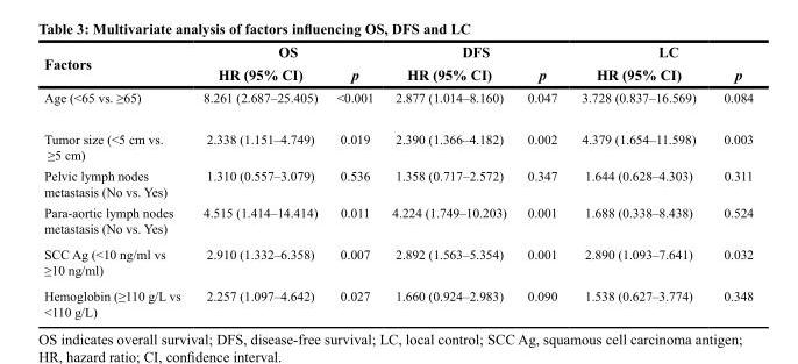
<table><thead><tr><td rowspan="2">Factors</td><td colspan="2">OS</td><td colspan="2">DFS</td><td colspan="2">LC</td></tr><tr><td>HR (95% CI)</td><td>p</td><td>HR (95% CI)</td><td>p</td><td>HR (95% CI)</td><td>p</td></tr></thead><tbody><tr><td>Age (&lt;65 vs. ≥65)</td><td>8.261 (2.687–25.405)</td><td>&lt;0.001</td><td>2.877 (1.014–8.160)</td><td>0.047</td><td>3.728 (0.837–16.569)</td><td>0.084</td></tr><tr><td>Tumor size (&lt;5 cm vs. ≥5 cm)</td><td>2.338 (1.151–4.749)</td><td>0.019</td><td>2.390 (1.366–4.182)</td><td>0.002</td><td>4.379 (1.654–11.598)</td><td>0.003</td></tr><tr><td>Pelvic lymph nodes metastasis (No vs. Yes)</td><td>1.310 (0.557–3.079)</td><td>0.536</td><td>1.358 (0.717–2.572)</td><td>0.347</td><td>1.644 (0.628–4.303)</td><td>0.311</td></tr><tr><td>Para-aortic lymph nodes metastasis (No vs. Yes)</td><td>4.515 (1.414–14.414)</td><td>0.011</td><td>4.224 (1.749–10.203)</td><td>0.001</td><td>1.688 (0.338–8.438)</td><td>0.524</td></tr><tr><td>SCC Ag (&lt;10 ng/ml vs ≥10 ng/ml)</td><td>2.910 (1.332–6.358)</td><td>0.007</td><td>2.892 (1.563–5.354)</td><td>0.001</td><td>2.890 (1.093–7.641)</td><td>0.032</td></tr><tr><td>Hemoglobin (≥110 g/L vs &lt;110 g/L)</td><td>2.257 (1.097–4.642)</td><td>0.027</td><td>1.660 (0.924–2.983)</td><td>0.090</td><td>1.538 (0.627–3.774)</td><td>0.348</td></tr></tbody></table>